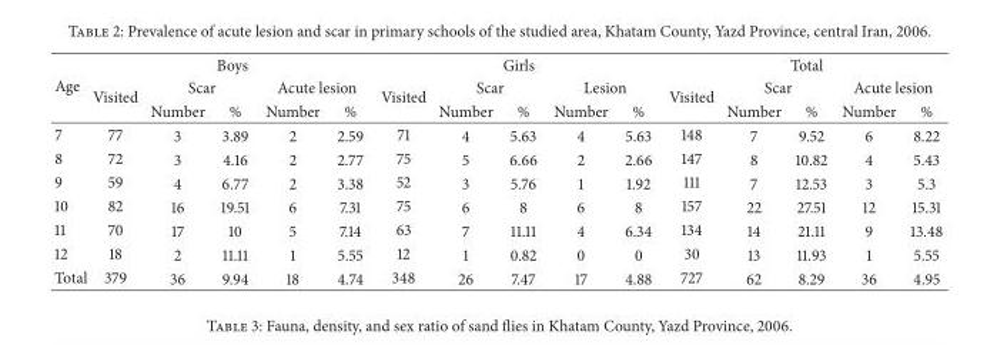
<table><thead><tr><td rowspan="3">Age</td><td colspan="5">Boys</td><td colspan="5">Girls</td><td colspan="5">Total</td></tr><tr><td rowspan="2">Visited</td><td colspan="2">Scar</td><td colspan="2">Acute lesion</td><td rowspan="2">Visited</td><td colspan="2">Scar</td><td colspan="2">Lesion</td><td rowspan="2">Visited</td><td colspan="2">Scar</td><td colspan="2">Acute lesion</td></tr><tr><td>Number</td><td>%</td><td>Number</td><td>%</td><td>Number</td><td>%</td><td>Number</td><td>%</td><td>Number</td><td>%</td><td>Number</td><td>%</td></tr></thead><tbody><tr><td>7</td><td>77</td><td>3</td><td>3.89</td><td>2</td><td>2.59</td><td>71</td><td>4</td><td>5.63</td><td>4</td><td>5.63</td><td>148</td><td>7</td><td>9.52</td><td>6</td><td>8.22</td></tr><tr><td>8</td><td>72</td><td>3</td><td>4.16</td><td>2</td><td>2.77</td><td>75</td><td>5</td><td>6.66</td><td>2</td><td>2.66</td><td>147</td><td>8</td><td>10.82</td><td>4</td><td>5.43</td></tr><tr><td>9</td><td>59</td><td>4</td><td>6.77</td><td>2</td><td>3.38</td><td>52</td><td>3</td><td>5.76</td><td>1</td><td>1.92</td><td>111</td><td>7</td><td>12.53</td><td>3</td><td>5.3</td></tr><tr><td>10</td><td>82</td><td>16</td><td>19.51</td><td>6</td><td>7.31</td><td>75</td><td>6</td><td>8</td><td>6</td><td>8</td><td>157</td><td>22</td><td>27.51</td><td>12</td><td>15.31</td></tr><tr><td>11</td><td>70</td><td>17</td><td>10</td><td>5</td><td>7.14</td><td>63</td><td>7</td><td>11.11</td><td>4</td><td>6.34</td><td>134</td><td>14</td><td>21.11</td><td>9</td><td>13.48</td></tr><tr><td>12</td><td>18</td><td>2</td><td>11.11</td><td>1</td><td>5.55</td><td>12</td><td>1</td><td>0.82</td><td>0</td><td>0</td><td>30</td><td>13</td><td>11.93</td><td>1</td><td>5.55</td></tr><tr><td>Total</td><td>379</td><td>36</td><td>9.94</td><td>18</td><td>4.74</td><td>348</td><td>26</td><td>7.47</td><td>17</td><td>4.88</td><td>727</td><td>62</td><td>8.29</td><td>36</td><td>4.95</td></tr></tbody></table>